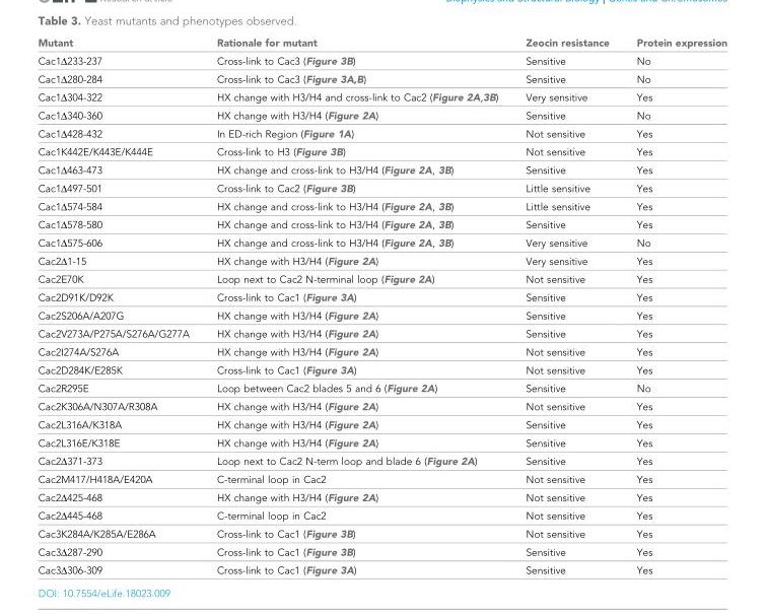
<table><thead><tr><td>Mutant</td><td>Rationale for mutant</td><td>Zeocin resistance</td><td>Protein expression</td></tr></thead><tbody><tr><td>Cac1Δ233-237</td><td>Cross-link to Cac3 (Figure 3B)</td><td>Sensitive</td><td>No</td></tr><tr><td>Cac1Δ280-284</td><td>Cross-link to Cac3 (Figure 3A,B)</td><td>Sensitive</td><td>No</td></tr><tr><td>Cac1Δ304-322</td><td>HX change with H3/H4 and cross-link to Cac2 (Figure 2A,3B)</td><td>Very sensitive</td><td>Yes</td></tr><tr><td>Cac1Δ340-360</td><td>HX change with H3/H4 (Figure 2A)</td><td>Sensitive</td><td>No</td></tr><tr><td>Cac1Δ428-432</td><td>In ED-rich Region (Figure 1A)</td><td>Not sensitive</td><td>Yes</td></tr><tr><td>Cac1K442E/K443E/K444E</td><td>Cross-link to H3 (Figure 3B)</td><td>Not sensitive</td><td>Yes</td></tr><tr><td>Cac1Δ463-473</td><td>HX change and cross-link to H3/H4 (Figure 2A, 3B)</td><td>Sensitive</td><td>Yes</td></tr><tr><td>Cac1Δ497-501</td><td>Cross-link to Cac2 (Figure 3B)</td><td>Little sensitive</td><td>Yes</td></tr><tr><td>Cac1Δ574-584</td><td>HX change and cross-link to H3/H4 (Figure 2A, 3B)</td><td>Little sensitive</td><td>Yes</td></tr><tr><td>Cac1Δ578-580</td><td>HX change and cross-link to H3/H4 (Figure 2A, 3B)</td><td>Sensitive</td><td>Yes</td></tr><tr><td>Cac1Δ575-606</td><td>HX change and cross-link to H3/H4 (Figure 2A, 3B)</td><td>Very sensitive</td><td>No</td></tr><tr><td>Cac2Δ1-15</td><td>HX change with H3/H4 (Figure 2A)</td><td>Very sensitive</td><td>Yes</td></tr><tr><td>Cac2E70K</td><td>Loop next to Cac2 N-terminal loop (Figure 2A)</td><td>Not sensitive</td><td>Yes</td></tr><tr><td>Cac2D91K/D92K</td><td>Cross-link to Cac1 (Figure 3A)</td><td>Sensitive</td><td>Yes</td></tr><tr><td>Cac2S206A/A207G</td><td>HX change with H3/H4 (Figure 2A)</td><td>Sensitive</td><td>Yes</td></tr><tr><td>Cac2V273A/P275A/S276A/G277A</td><td>HX change with H3/H4 (Figure 2A)</td><td>Sensitive</td><td>Yes</td></tr><tr><td>Cac2I274A/S276A</td><td>HX change with H3/H4 (Figure 2A)</td><td>Not sensitive</td><td>Yes</td></tr><tr><td>Cac2D284K/E285K</td><td>Cross-link to Cac1 (Figure 3A)</td><td>Not sensitive</td><td>Yes</td></tr><tr><td>Cac2R295E</td><td>Loop between Cac2 blades 5 and 6 (Figure 2A)</td><td>Sensitive</td><td>No</td></tr><tr><td>Cac2K306A/N307A/R308A</td><td>HX change with H3/H4 (Figure 2A)</td><td>Not sensitive</td><td>Yes</td></tr><tr><td>Cac2L316A/K318A</td><td>HX change with H3/H4 (Figure 2A)</td><td>Sensitive</td><td>Yes</td></tr><tr><td>Cac2L316E/K318E</td><td>HX change with H3/H4 (Figure 2A)</td><td>Sensitive</td><td>Yes</td></tr><tr><td>Cac2Δ371-373</td><td>Loop next to Cac2 N-term loop and blade 6 (Figure 2A)</td><td>Sensitive</td><td>Yes</td></tr><tr><td>Cac2M417/H418A/E420A</td><td>C-terminal loop in Cac2</td><td>Not sensitive</td><td>Yes</td></tr><tr><td>Cac2Δ425-468</td><td>HX change with H3/H4 (Figure 2A)</td><td>Not sensitive</td><td>Yes</td></tr><tr><td>Cac2Δ445-468</td><td>C-terminal loop in Cac2</td><td>Not sensitive</td><td>Yes</td></tr><tr><td>Cac3K284A/K285A/E286A</td><td>Cross-link to Cac1 (Figure 3B)</td><td>Not sensitive</td><td>Yes</td></tr><tr><td>Cac3Δ287-290</td><td>Cross-link to Cac1 (Figure 3B)</td><td>Sensitive</td><td>Yes</td></tr><tr><td>Cac3Δ306-309</td><td>Cross-link to Cac1 (Figure 3A)</td><td>Sensitive</td><td>Yes</td></tr></tbody></table>